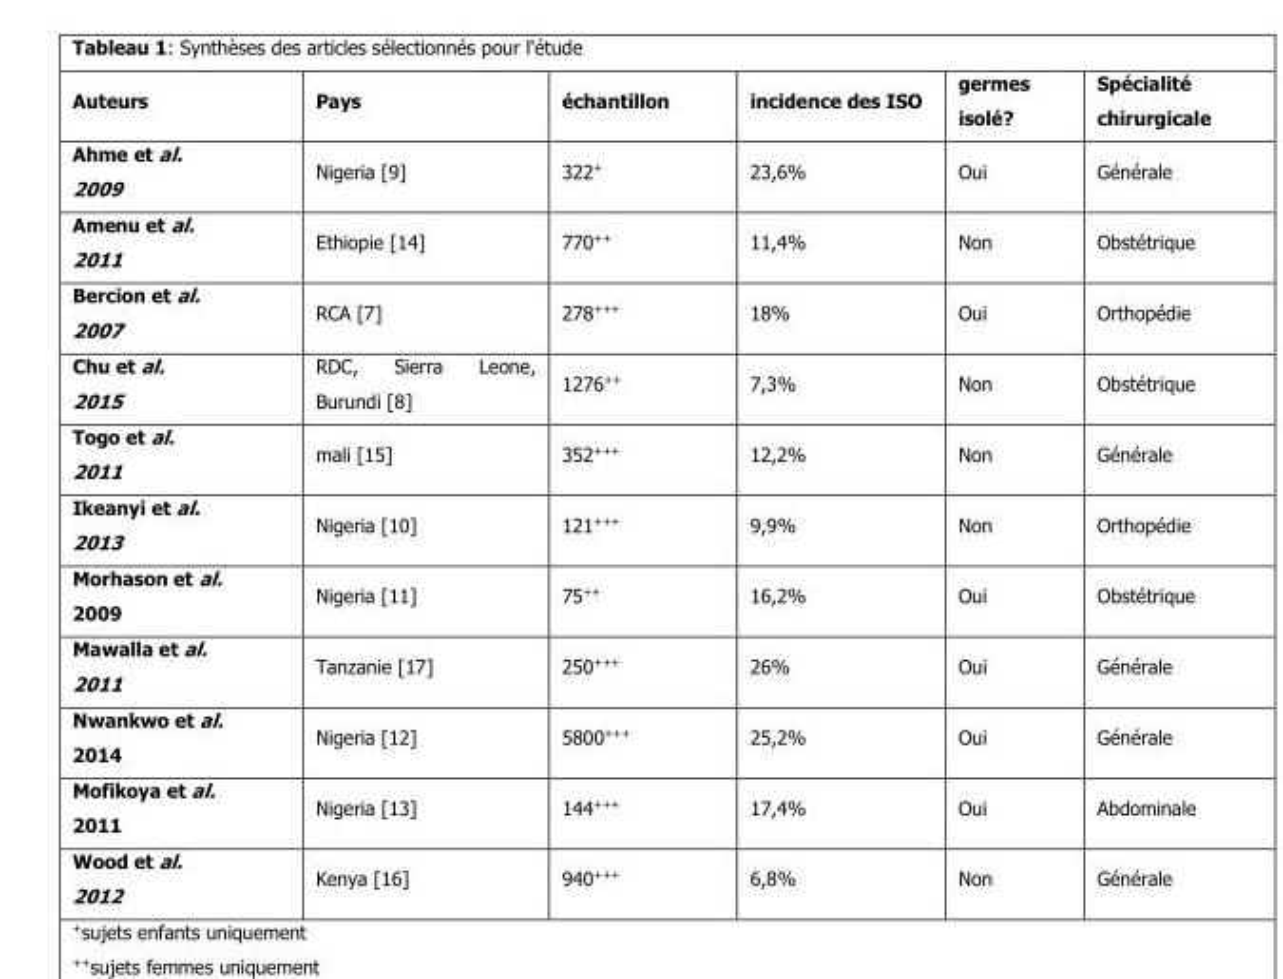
<table><thead><tr><td>Auteurs</td><td>Pays</td><td>échantillon</td><td>incidence des ISO</td><td>germes isolé?</td><td>Spécialité chirurgicale</td></tr></thead><tbody><tr><td>Ahme et al. 2009</td><td>Nigeria [9]</td><td>322+</td><td>23,6%</td><td>Oui</td><td>Générale</td></tr><tr><td>Amenu et al. 2011</td><td>Ethiopie [14]</td><td>770++</td><td>11,4%</td><td>Non</td><td>Obstétrique</td></tr><tr><td>Bercion et al. 2007</td><td>RCA [7]</td><td>278+++</td><td>18%</td><td>Oui</td><td>Orthopédie</td></tr><tr><td>Chu et al. 2015</td><td>RDC, Sierra Leone, Burundi [8]</td><td>1276++</td><td>7,3%</td><td>Non</td><td>Obstétrique</td></tr><tr><td>Togo et al. 2011</td><td>mali [15]</td><td>352+++</td><td>12,2%</td><td>Non</td><td>Générale</td></tr><tr><td>Ikeanyi et al. 2013</td><td>Nigeria [10]</td><td>121+++</td><td>9,9%</td><td>Non</td><td>Orthopédie</td></tr><tr><td>Morhason et al. 2009</td><td>Nigeria [11]</td><td>75++</td><td>16,2%</td><td>Oui</td><td>Obstétrique</td></tr><tr><td>Mawalla et al. 2011</td><td>Tanzanie [17]</td><td>250+++</td><td>26%</td><td>Oui</td><td>Générale</td></tr><tr><td>Nwankwo et al. 2014</td><td>Nigeria [12]</td><td>5800+++</td><td>25,2%</td><td>Oui</td><td>Générale</td></tr><tr><td>Mofikoya et al. 2011</td><td>Nigeria [13]</td><td>144+++</td><td>17,4%</td><td>Oui</td><td>Abdominale</td></tr><tr><td>Wood et al. 2012</td><td>Kenya [16]</td><td>940+++</td><td>6,8%</td><td>Non</td><td>Générale</td></tr></tbody></table>